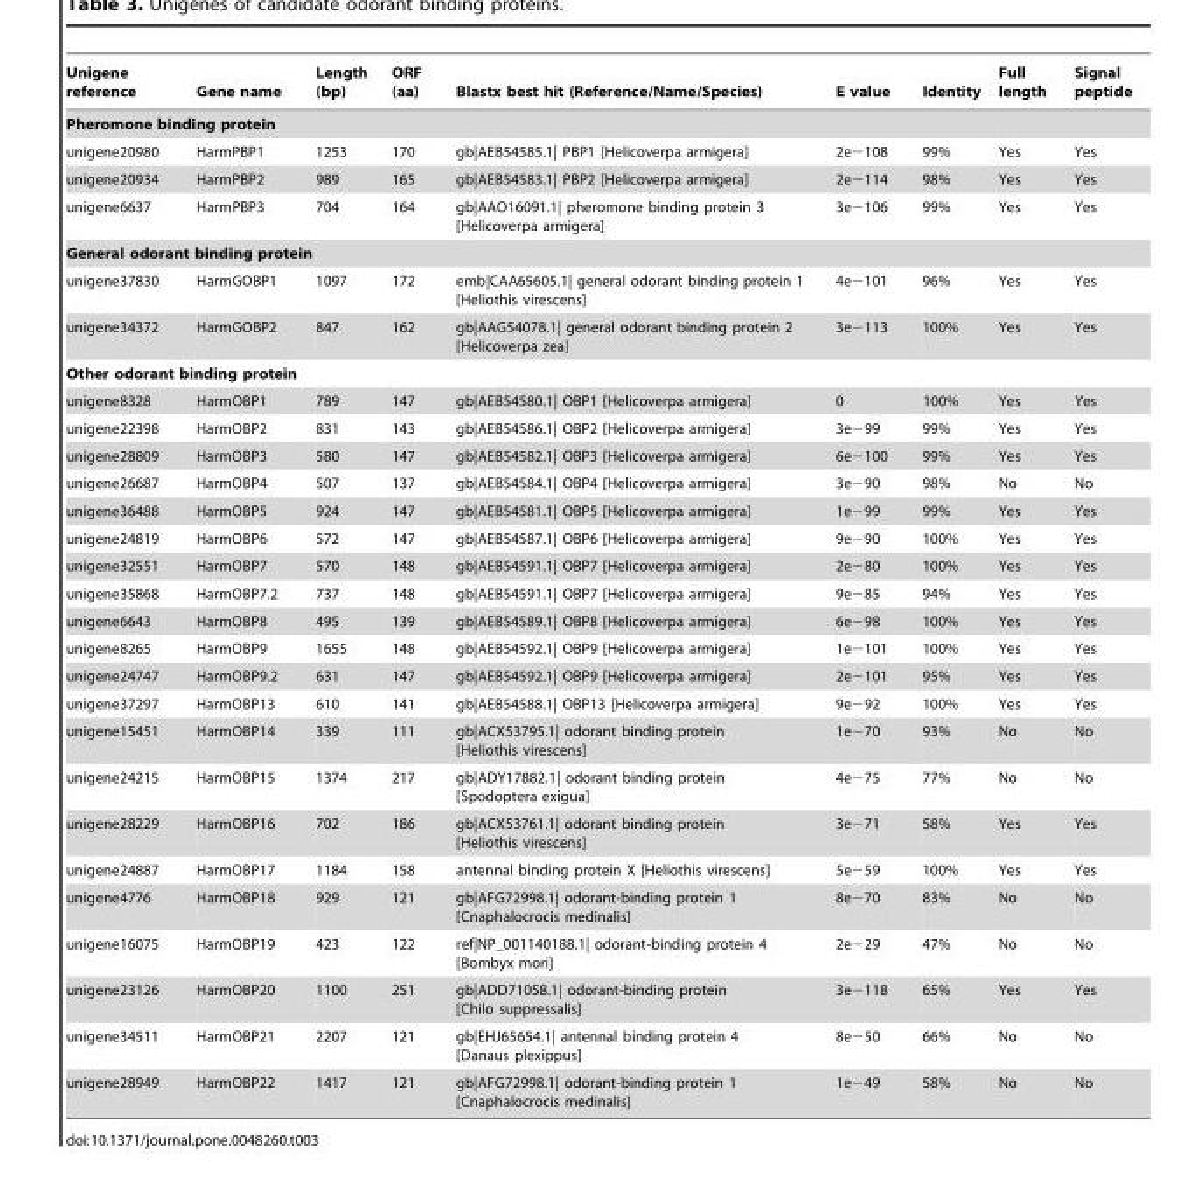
<table><thead><tr><td>Unigene reference</td><td>Gene name</td><td>Length (bp)</td><td>ORF (aa)</td><td>Blastx best hit (Reference/Name/Species)</td><td>E value</td><td>Identity</td><td>Full length</td><td>Signal peptide</td></tr></thead><tbody><tr><td colspan="9">Pheromone binding protein</td></tr><tr><td>unigene20980</td><td>HarmPBP1</td><td>1253</td><td>170</td><td>gb|AEB54585.1| PBP1 [Helicoverpa armigera]</td><td>2e−108</td><td>99%</td><td>Yes</td><td>Yes</td></tr><tr><td>unigene20934</td><td>HarmPBP2</td><td>989</td><td>165</td><td>gb|AEB54583.1| PBP2 [Helicoverpa armigera]</td><td>2e−114</td><td>98%</td><td>Yes</td><td>Yes</td></tr><tr><td>unigene6637</td><td>HarmPBP3</td><td>704</td><td>164</td><td>gb|AAO16091.1| pheromone binding protein 3 [Helicoverpa armigera]</td><td>3e−106</td><td>99%</td><td>Yes</td><td>Yes</td></tr><tr><td colspan="9">General odorant binding protein</td></tr><tr><td>unigene37830</td><td>HarmGOBP1</td><td>1097</td><td>172</td><td>emb|CAA65605.1| general odorant binding protein 1 [Heliothis virescens]</td><td>4e−101</td><td>96%</td><td>Yes</td><td>Yes</td></tr><tr><td>unigene34372</td><td>HarmGOBP2</td><td>847</td><td>162</td><td>gb|AAG54078.1| general odorant binding protein 2 [Helicoverpa zea]</td><td>3e−113</td><td>100%</td><td>Yes</td><td>Yes</td></tr><tr><td colspan="9">Other odorant binding protein</td></tr><tr><td>unigene8328</td><td>HarmOBP1</td><td>789</td><td>147</td><td>gb|AEB54580.1| OBP1 [Helicoverpa armigera]</td><td>0</td><td>100%</td><td>Yes</td><td>Yes</td></tr><tr><td>unigene22398</td><td>HarmOBP2</td><td>831</td><td>143</td><td>gb|AEB54586.1| OBP2 [Helicoverpa armigera]</td><td>3e−99</td><td>99%</td><td>Yes</td><td>Yes</td></tr><tr><td>unigene28809</td><td>HarmOBP3</td><td>580</td><td>147</td><td>gb|AEB54582.1| OBP3 [Helicoverpa armigera]</td><td>6e−100</td><td>99%</td><td>Yes</td><td>Yes</td></tr><tr><td>unigene26687</td><td>HarmOBP4</td><td>507</td><td>137</td><td>gb|AEB54584.1| OBP4 [Helicoverpa armigera]</td><td>3e−90</td><td>98%</td><td>No</td><td>No</td></tr><tr><td>unigene36488</td><td>HarmOBP5</td><td>924</td><td>147</td><td>gb|AEB54581.1| OBP5 [Helicoverpa armigera]</td><td>1e−99</td><td>99%</td><td>Yes</td><td>Yes</td></tr><tr><td>unigene24819</td><td>HarmOBP6</td><td>572</td><td>147</td><td>gb|AEB54587.1| OBP6 [Helicoverpa armigera]</td><td>9e−90</td><td>100%</td><td>Yes</td><td>Yes</td></tr><tr><td>unigene32551</td><td>HarmOBP7</td><td>570</td><td>148</td><td>gb|AEB54591.1| OBP7 [Helicoverpa armigera]</td><td>2e−80</td><td>100%</td><td>Yes</td><td>Yes</td></tr><tr><td>unigene35868</td><td>HarmOBP7.2</td><td>737</td><td>148</td><td>gb|AEB54591.1| OBP7 [Helicoverpa armigera]</td><td>9e−85</td><td>94%</td><td>Yes</td><td>Yes</td></tr><tr><td>unigene6643</td><td>HarmOBP8</td><td>495</td><td>139</td><td>gb|AEB54589.1| OBP8 [Helicoverpa armigera]</td><td>6e−98</td><td>100%</td><td>Yes</td><td>Yes</td></tr><tr><td>unigene8265</td><td>HarmOBP9</td><td>1655</td><td>148</td><td>gb|AEB54592.1| OBP9 [Helicoverpa armigera]</td><td>1e−101</td><td>100%</td><td>Yes</td><td>Yes</td></tr><tr><td>unigene24747</td><td>HarmOBP9.2</td><td>631</td><td>147</td><td>gb|AEB54592.1| OBP9 [Helicoverpa armigera]</td><td>2e−101</td><td>95%</td><td>Yes</td><td>Yes</td></tr><tr><td>unigene37297</td><td>HarmOBP13</td><td>610</td><td>141</td><td>gb|AEB54588.1| OBP13 [Helicoverpa armigera]</td><td>9e−92</td><td>100%</td><td>Yes</td><td>Yes</td></tr><tr><td>unigene15451</td><td>HarmOBP14</td><td>339</td><td>111</td><td>gb|ACX53795.1| odorant binding protein [Heliothis virescens]</td><td>1e−70</td><td>93%</td><td>No</td><td>No</td></tr><tr><td>unigene24215</td><td>HarmOBP15</td><td>1374</td><td>217</td><td>gb|ADY17882.1| odorant binding protein [Spodoptera exigua]</td><td>4e−75</td><td>77%</td><td>No</td><td>No</td></tr><tr><td>unigene28229</td><td>HarmOBP16</td><td>702</td><td>186</td><td>gb|ACX53761.1| odorant binding protein [Heliothis virescens]</td><td>3e−71</td><td>58%</td><td>Yes</td><td>Yes</td></tr><tr><td>unigene24887</td><td>HarmOBP17</td><td>1184</td><td>158</td><td>antennal binding protein X [Heliothis virescens]</td><td>5e−59</td><td>100%</td><td>Yes</td><td>Yes</td></tr><tr><td>unigene4776</td><td>HarmOBP18</td><td>929</td><td>121</td><td>gb|AFG72998.1| odorant-binding protein 1 [Cnaphalocrocis medinalis]</td><td>8e−70</td><td>83%</td><td>No</td><td>No</td></tr><tr><td>unigene16075</td><td>HarmOBP19</td><td>423</td><td>122</td><td>ref|NP_001140188.1| odorant-binding protein 4 [Bombyx mori]</td><td>2e−29</td><td>47%</td><td>No</td><td>No</td></tr><tr><td>unigene23126</td><td>HarmOBP20</td><td>1100</td><td>251</td><td>gb|ADD71058.1| odorant-binding protein [Chilo suppressalis]</td><td>3e−118</td><td>65%</td><td>Yes</td><td>Yes</td></tr><tr><td>unigene34511</td><td>HarmOBP21</td><td>2207</td><td>121</td><td>gb|EHJ65654.1| antennal binding protein 4 [Danaus plexippus]</td><td>8e−50</td><td>66%</td><td>No</td><td>No</td></tr><tr><td>unigene28949</td><td>HarmOBP22</td><td>1417</td><td>121</td><td>gb|AFG72998.1| odorant-binding protein 1 [Cnaphalocrocis medinalis]</td><td>1e−49</td><td>58%</td><td>No</td><td>No</td></tr></tbody></table>